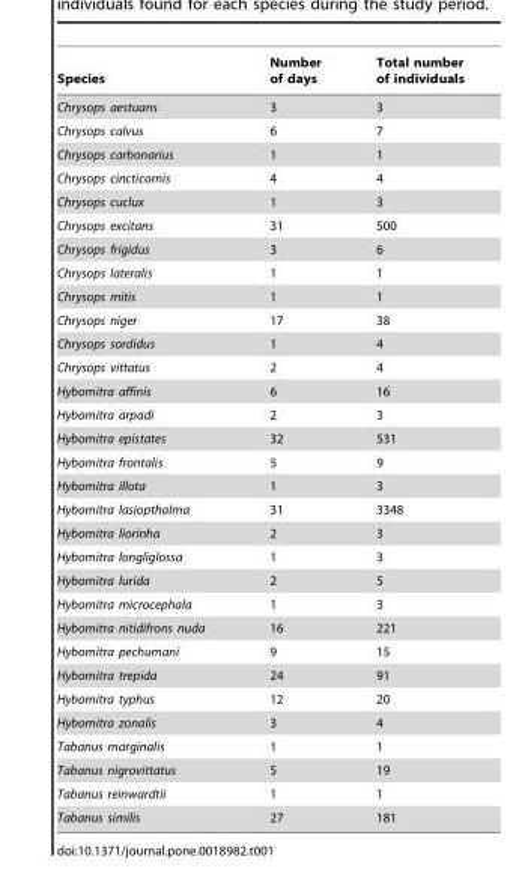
<table><thead><tr><td>Species</td><td>Number of days</td><td>Total number of individuals</td></tr></thead><tbody><tr><td>Chrysops aestuans</td><td>3</td><td>3</td></tr><tr><td>Chrysops calvus</td><td>6</td><td>7</td></tr><tr><td>Chrysops carbonarius</td><td>1</td><td>1</td></tr><tr><td>Chrysops cincticornis</td><td>4</td><td>4</td></tr><tr><td>Chrysops cuclux</td><td>1</td><td>3</td></tr><tr><td>Chrysops excitans</td><td>31</td><td>500</td></tr><tr><td>Chrysops frigidus</td><td>3</td><td>6</td></tr><tr><td>Chrysops lateralis</td><td>1</td><td>1</td></tr><tr><td>Chrysops mitis</td><td>1</td><td>1</td></tr><tr><td>Chrysops niger</td><td>17</td><td>38</td></tr><tr><td>Chrysops sordidus</td><td>1</td><td>4</td></tr><tr><td>Chrysops vittatus</td><td>2</td><td>4</td></tr><tr><td>Hybomitra affinis</td><td>6</td><td>16</td></tr><tr><td>Hybomitra arpadi</td><td>2</td><td>3</td></tr><tr><td>Hybomitra epistates</td><td>32</td><td>531</td></tr><tr><td>Hybomitra frontalis</td><td>5</td><td>9</td></tr><tr><td>Hybomitra illota</td><td>1</td><td>3</td></tr><tr><td>Hybomitra lasiopthalma</td><td>31</td><td>3348</td></tr><tr><td>Hybomitra liorinha</td><td>2</td><td>3</td></tr><tr><td>Hybomitra longliglossa</td><td>1</td><td>3</td></tr><tr><td>Hybomitra lurida</td><td>2</td><td>5</td></tr><tr><td>Hybomitra microcephala</td><td>1</td><td>3</td></tr><tr><td>Hybomitra nitidifrons nuda</td><td>16</td><td>221</td></tr><tr><td>Hybomitra pechumani</td><td>9</td><td>15</td></tr><tr><td>Hybomitra trepida</td><td>24</td><td>91</td></tr><tr><td>Hybomitra typhus</td><td>12</td><td>20</td></tr><tr><td>Hybomitra zonalis</td><td>3</td><td>4</td></tr><tr><td>Tabanus marginalis</td><td>1</td><td>1</td></tr><tr><td>Tabanus nigrovittatus</td><td>5</td><td>19</td></tr><tr><td>Tabanus reinwardtii</td><td>1</td><td>1</td></tr><tr><td>Tabanus similis</td><td>27</td><td>181</td></tr></tbody></table>